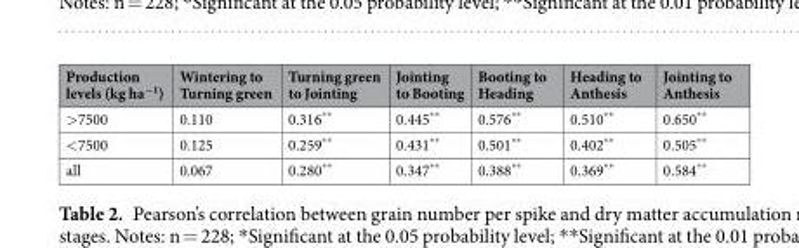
<table><thead><tr><td>Production levels (kg ha<sup>−1</sup>)</td><td>Wintering to Turning green</td><td>Turning green to Jointing</td><td>Jointing to Booting</td><td>Booting to Heading</td><td>Heading to Anthesis</td><td>Jointing to Anthesis</td></tr></thead><tbody><tr><td>&gt;7500</td><td>0.110</td><td>0.316**</td><td>0.445**</td><td>0.576**</td><td>0.510**</td><td>0.650**</td></tr><tr><td>&lt;7500</td><td>0.125</td><td>0.259**</td><td>0.431**</td><td>0.501**</td><td>0.402**</td><td>0.505**</td></tr><tr><td>all</td><td>0.067</td><td>0.280**</td><td>0.347**</td><td>0.388**</td><td>0.369**</td><td>0.584**</td></tr></tbody></table>